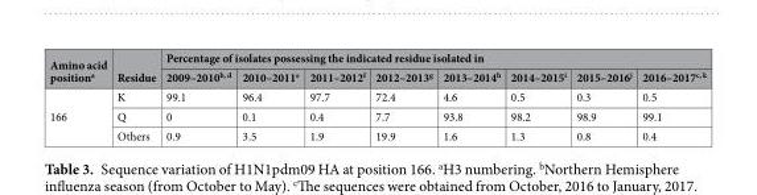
<table><thead><tr><td rowspan="2">Amino acid position<sup>a</sup></td><td rowspan="2">Residue</td><td colspan="8">Percentage of isolates possessing the indicated residue isolated in</td></tr><tr><td>2009–2010<sup>b, d</sup></td><td>2010–2011<sup>e</sup></td><td>2011–2012<sup>f</sup></td><td>2012–2013<sup>g</sup></td><td>2013–2014<sup>h</sup></td><td>2014–2015<sup>i</sup></td><td>2015–2016<sup>j</sup></td><td>2016–2017<sup>c, k</sup></td></tr></thead><tbody><tr><td rowspan="3">166</td><td>K</td><td>99.1</td><td>96.4</td><td>97.7</td><td>72.4</td><td>4.6</td><td>0.5</td><td>0.3</td><td>0.5</td></tr><tr><td>Q</td><td>0</td><td>0.1</td><td>0.4</td><td>7.7</td><td>93.8</td><td>98.2</td><td>98.9</td><td>99.1</td></tr><tr><td>Others</td><td>0.9</td><td>3.5</td><td>1.9</td><td>19.9</td><td>1.6</td><td>1.3</td><td>0.8</td><td>0.4</td></tr></tbody></table>